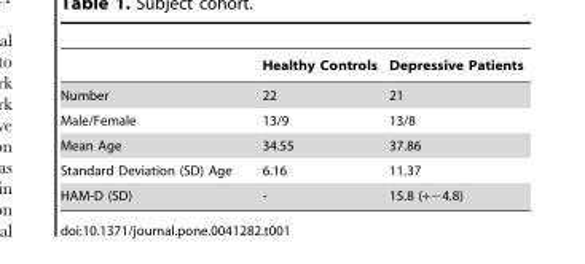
<table><thead><tr><td></td><td>Healthy Controls</td><td>Depressive Patients</td></tr></thead><tbody><tr><td>Number</td><td>22</td><td>21</td></tr><tr><td>Male/Female</td><td>13/9</td><td>13/8</td></tr><tr><td>Mean Age</td><td>34.55</td><td>37.86</td></tr><tr><td>Standard Deviation (SD) Age</td><td>6.16</td><td>11.37</td></tr><tr><td>HAM-D (SD)</td><td>-</td><td>15.8 (+−4.8)</td></tr></tbody></table>